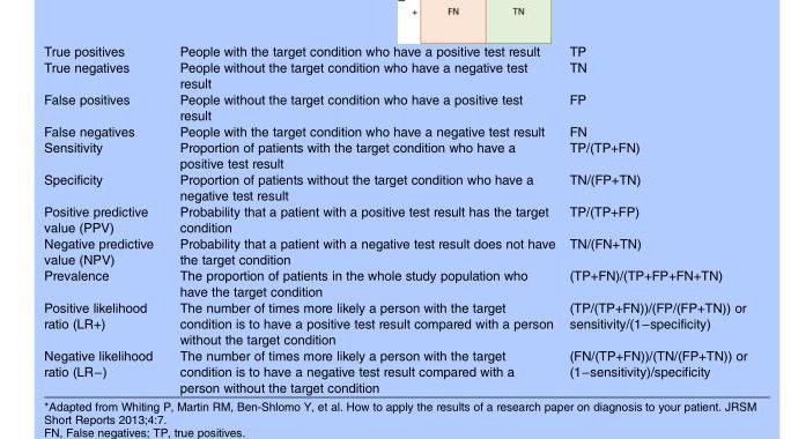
<table><tbody><tr><td>True positives</td><td>People with the target condition who have a positive test result</td><td>TP</td></tr><tr><td>True negatives</td><td>People without the target condition who have a negative test result</td><td>TN</td></tr><tr><td>False positives</td><td>People without the target condition who have a positive test result</td><td>FP</td></tr><tr><td>False negatives</td><td>People with the target condition who have a negative test result</td><td>FN</td></tr><tr><td>Sensitivity</td><td>Proportion of patients with the target condition who have a positive test result</td><td>TP/(TP+FN)</td></tr><tr><td>Specificity</td><td>Proportion of patients without the target condition who have a negative test result</td><td>TN/(FP+TN)</td></tr><tr><td>Positive predictive value (PPV)</td><td>Probability that a patient with a positive test result has the target condition</td><td>TP/(TP+FP)</td></tr><tr><td>Negative predictive value (NPV)</td><td>Probability that a patient with a negative test result does not have the target condition</td><td>TN/(FN+TN)</td></tr><tr><td>Prevalence</td><td>The proportion of patients in the whole study population who have the target condition</td><td>(TP+FN)/(TP+FP+FN+TN)</td></tr><tr><td>Positive likelihood ratio (LR+)</td><td>The number of times more likely a person with the target condition is to have a positive test result compared with a person without the target condition</td><td>(TP/(TP+FN))/(FP/(FP+TN)) or sensitivity/(1−specificity)</td></tr><tr><td>Negative likelihood ratio (LR−)</td><td>The number of times more likely a person with the target condition is to have a negative test result compared with a person without the target condition</td><td>(FN/(TP+FN))/(TN/(FP+TN)) or (1−sensitivity)/specificity</td></tr></tbody></table>